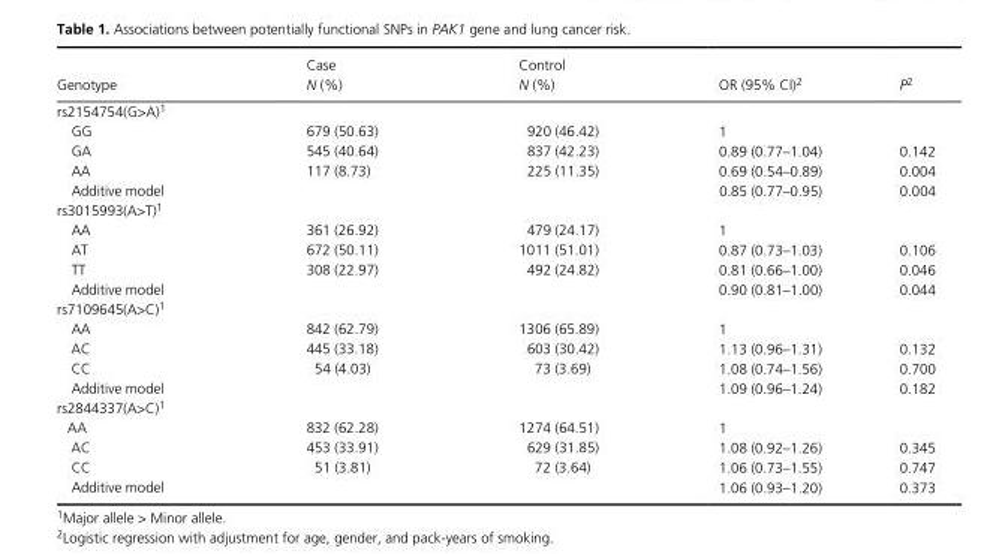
<table><thead><tr><td>Genotype</td><td>Case N (%)</td><td>Control N (%)</td><td>OR (95% CI)<sup>2</sup></td><td>P2</td></tr></thead><tbody><tr><td colspan="5">rs2154754(G&gt;A)<sup>1</sup></td></tr><tr><td>GG</td><td>679 (50.63)</td><td>920 (46.42)</td><td>1</td><td></td></tr><tr><td>GA</td><td>545 (40.64)</td><td>837 (42.23)</td><td>0.89 (0.77–1.04)</td><td>0.142</td></tr><tr><td>AA</td><td>117 (8.73)</td><td>225 (11.35)</td><td>0.69 (0.54–0.89)</td><td>0.004</td></tr><tr><td>Additive model</td><td></td><td></td><td>0.85 (0.77–0.95)</td><td>0.004</td></tr><tr><td colspan="5">rs3015993(A&gt;T)<sup>1</sup></td></tr><tr><td>AA</td><td>361 (26.92)</td><td>479 (24.17)</td><td>1</td><td></td></tr><tr><td>AT</td><td>672 (50.11)</td><td>1011 (51.01)</td><td>0.87 (0.73–1.03)</td><td>0.106</td></tr><tr><td>TT</td><td>308 (22.97)</td><td>492 (24.82)</td><td>0.81 (0.66–1.00)</td><td>0.046</td></tr><tr><td>Additive model</td><td></td><td></td><td>0.90 (0.81–1.00)</td><td>0.044</td></tr><tr><td colspan="5">rs7109645(A&gt;C)<sup>1</sup></td></tr><tr><td>AA</td><td>842 (62.79)</td><td>1306 (65.89)</td><td>1</td><td></td></tr><tr><td>AC</td><td>445 (33.18)</td><td>603 (30.42)</td><td>1.13 (0.96–1.31)</td><td>0.132</td></tr><tr><td>CC</td><td>54 (4.03)</td><td>73 (3.69)</td><td>1.08 (0.74–1.56)</td><td>0.700</td></tr><tr><td>Additive model</td><td></td><td></td><td>1.09 (0.96–1.24)</td><td>0.182</td></tr><tr><td colspan="5">rs2844337(A&gt;C)<sup>1</sup></td></tr><tr><td>AA</td><td>832 (62.28)</td><td>1274 (64.51)</td><td>1</td><td></td></tr><tr><td>AC</td><td>453 (33.91)</td><td>629 (31.85)</td><td>1.08 (0.92–1.26)</td><td>0.345</td></tr><tr><td>CC</td><td>51 (3.81)</td><td>72 (3.64)</td><td>1.06 (0.73–1.55)</td><td>0.747</td></tr><tr><td>Additive model</td><td></td><td></td><td>1.06 (0.93–1.20)</td><td>0.373</td></tr></tbody></table>